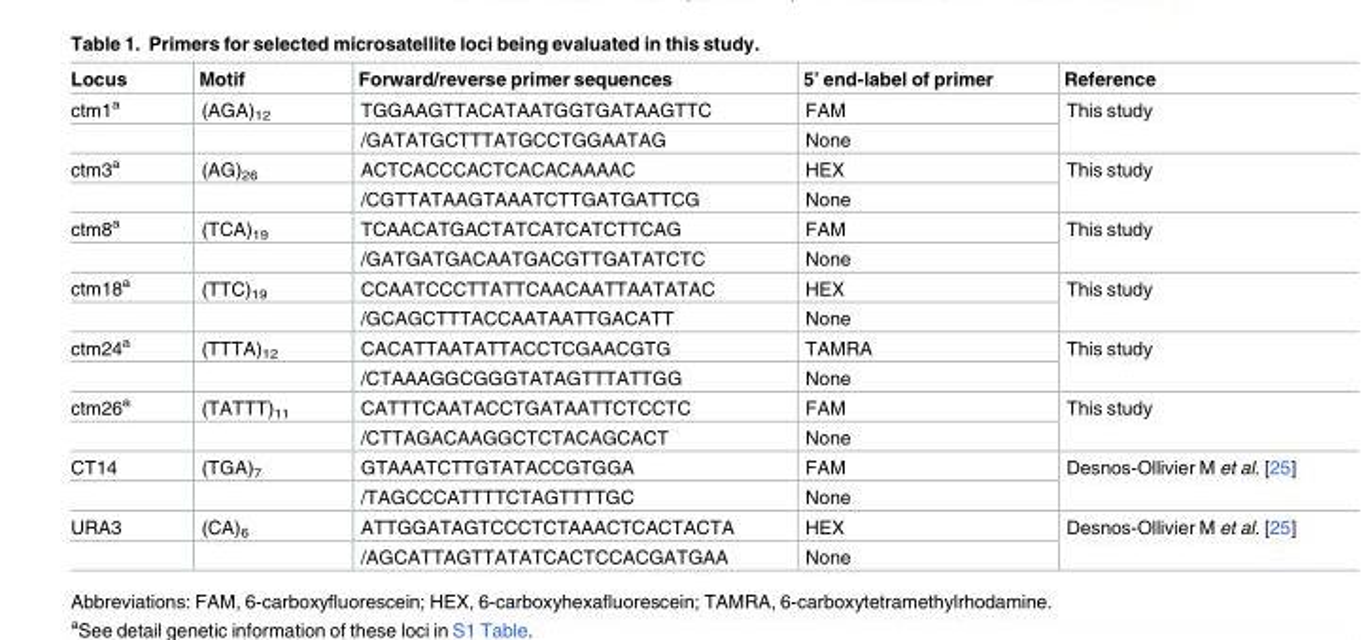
<table><thead><tr><td>Locus</td><td>Motif</td><td>Forward/reverse primer sequences</td><td>5’ end-label of primer</td><td>Reference</td></tr></thead><tbody><tr><td rowspan="2">ctm1<sup>a</sup></td><td>(AGA)<sub>12</sub></td><td>TGGAAGTTACATAATGGTGATAAGTTC</td><td>FAM</td><td rowspan="2">This study</td></tr><tr><td></td><td>/GATATGCTTTATGCCTGGAATAG</td><td>None</td></tr><tr><td rowspan="2">ctm3<sup>a</sup></td><td>(AG)<sub>26</sub></td><td>ACTCACCCACTCACACAAAAC</td><td>HEX</td><td rowspan="2">This study</td></tr><tr><td></td><td>/CGTTATAAGTAAATCTTGATGATTCG</td><td>None</td></tr><tr><td rowspan="2">ctm8<sup>a</sup></td><td>(TCA)<sub>19</sub></td><td>TCAACATGACTATCATCATCTTCAG</td><td>FAM</td><td rowspan="2">This study</td></tr><tr><td></td><td>/GATGATGACAATGACGTTGATATCTC</td><td>None</td></tr><tr><td rowspan="2">ctm18<sup>a</sup></td><td>(TTC)<sub>19</sub></td><td>CCAATCCCTTATTCAACAATTAATATAC</td><td>HEX</td><td rowspan="2">This study</td></tr><tr><td></td><td>/GCAGCTTTACCAATAATTGACATT</td><td>None</td></tr><tr><td rowspan="2">ctm24<sup>a</sup></td><td>(TTTA)<sub>12</sub></td><td>CACATTAATATTACCTCGAACGTG</td><td>TAMRA</td><td rowspan="2">This study</td></tr><tr><td></td><td>/CTAAAGGCGGGTATAGTTTATTGG</td><td>None</td></tr><tr><td rowspan="2">ctm26<sup>a</sup></td><td>(TATTT)<sub>11</sub></td><td>CATTTCAATACCTGATAATTCTCCTC</td><td>FAM</td><td rowspan="2">This study</td></tr><tr><td></td><td>/CTTAGACAAGGCTCTACAGCACT</td><td>None</td></tr><tr><td rowspan="2">CT14</td><td>(TGA)<sub>7</sub></td><td>GTAAATCTTGTATACCGTGGA</td><td>FAM</td><td rowspan="2">Desnos-Ollivier M et al. [25]</td></tr><tr><td></td><td>/TAGCCCATTTTCTAGTTTTGC</td><td>None</td></tr><tr><td rowspan="2">URA3</td><td>(CA)<sub>6</sub></td><td>ATTGGATAGTCCCTCTAAACTCACTACTA</td><td>HEX</td><td rowspan="2">Desnos-Ollivier M et al. [25]</td></tr><tr><td></td><td>/AGCATTAGTTATATCACTCCACGATGAA</td><td>None</td></tr></tbody></table>